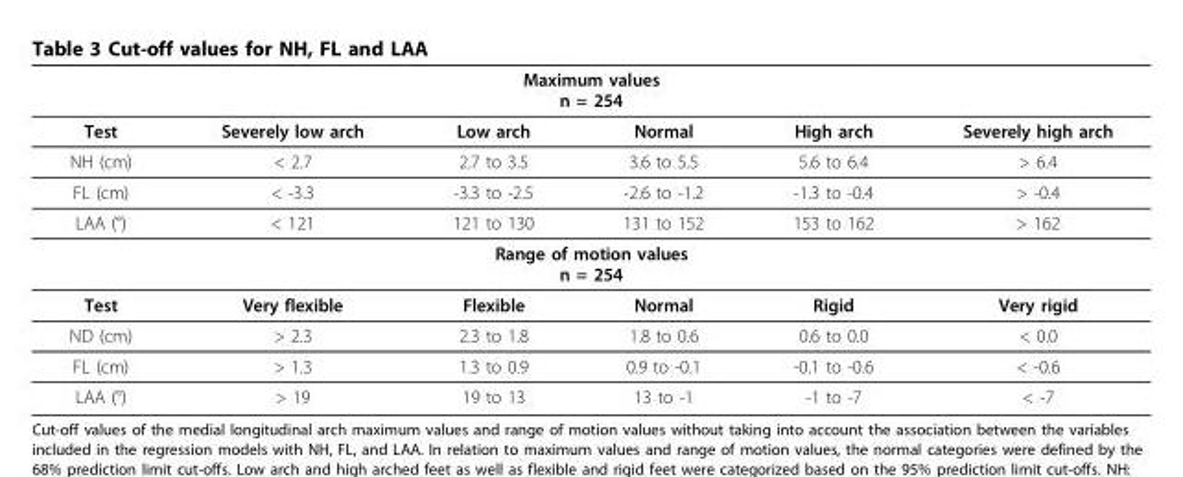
<table><thead><tr><td colspan="6">Maximum values n = 254</td></tr><tr><td>Test</td><td>Severely low arch</td><td>Low arch</td><td>Normal</td><td>High arch</td><td>Severely high arch</td></tr></thead><tbody><tr><td>NH (cm)</td><td>&lt; 2.7</td><td>2.7 to 3.5</td><td>3.6 to 5.5</td><td>5.6 to 6.4</td><td>&gt; 6.4</td></tr><tr><td>FL (cm)</td><td>&lt; -3.3</td><td>-3.3 to -2.5</td><td>-2.6 to -1.2</td><td>-1.3 to -0.4</td><td>&gt; -0.4</td></tr><tr><td>LAA (°)</td><td>&lt; 121</td><td>121 to 130</td><td>131 to 152</td><td>153 to 162</td><td>&gt; 162</td></tr><tr><td colspan="6">Range of motion values n = 254</td></tr><tr><td>Test</td><td>Very flexible</td><td>Flexible</td><td>Normal</td><td>Rigid</td><td>Very rigid</td></tr><tr><td>ND (cm)</td><td>&gt; 2.3</td><td>2.3 to 1.8</td><td>1.8 to 0.6</td><td>0.6 to 0.0</td><td>&lt; 0.0</td></tr><tr><td>FL (cm)</td><td>&gt; 1.3</td><td>1.3 to 0.9</td><td>0.9 to -0.1</td><td>-0.1 to -0.6</td><td>&lt; -0.6</td></tr><tr><td>LAA (°)</td><td>&gt; 19</td><td>19 to 13</td><td>13 to -1</td><td>-1 to -7</td><td>&lt; -7</td></tr></tbody></table>